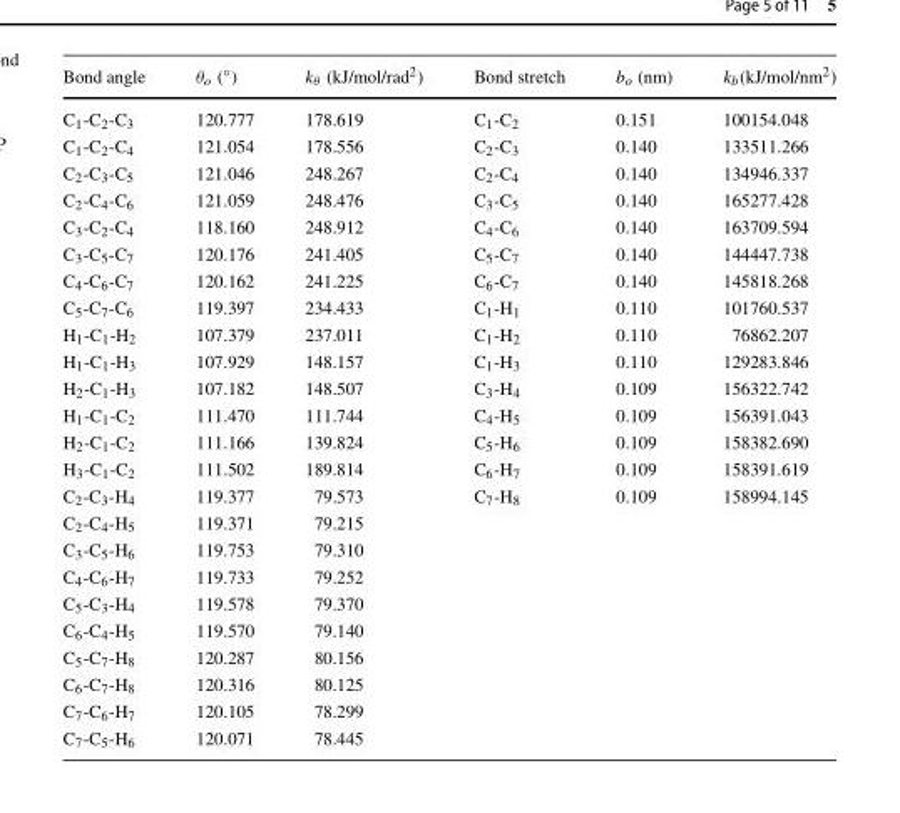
<table><thead><tr><td>Bond angle</td><td>θo (◦)</td><td>k<sub>θ</sub> (kJ/mol/rad<sup>2</sup>)</td><td>Bond stretch</td><td>b<sub>o</sub> (nm)</td><td>k<sub>b</sub>(kJ/mol/nm<sup>2</sup>)</td></tr></thead><tbody><tr><td>C<sub>1</sub>-C<sub>2</sub>-C<sub>3</sub></td><td>120.777</td><td>178.619</td><td>C<sub>1</sub>-C<sub>2</sub></td><td>0.151</td><td>100154.048</td></tr><tr><td>C<sub>1</sub>-C<sub>2</sub>-C<sub>4</sub></td><td>121.054</td><td>178.556</td><td>C<sub>2</sub>-C<sub>3</sub></td><td>0.140</td><td>133511.266</td></tr><tr><td>C<sub>2</sub>-C<sub>3</sub>-C<sub>5</sub></td><td>121.046</td><td>248.267</td><td>C<sub>2</sub>-C<sub>4</sub></td><td>0.140</td><td>134946.337</td></tr><tr><td>C<sub>2</sub>-C<sub>4</sub>-C<sub>6</sub></td><td>121.059</td><td>248.476</td><td>C<sub>3</sub>-C<sub>5</sub></td><td>0.140</td><td>165277.428</td></tr><tr><td>C<sub>3</sub>-C<sub>2</sub>-C<sub>4</sub></td><td>118.160</td><td>248.912</td><td>C<sub>4</sub>-C<sub>6</sub></td><td>0.140</td><td>163709.594</td></tr><tr><td>C<sub>3</sub>-C<sub>5</sub>-C<sub>7</sub></td><td>120.176</td><td>241.405</td><td>C<sub>5</sub>-C<sub>7</sub></td><td>0.140</td><td>144447.738</td></tr><tr><td>C<sub>4</sub>-C<sub>6</sub>-C<sub>7</sub></td><td>120.162</td><td>241.225</td><td>C<sub>6</sub>-C<sub>7</sub></td><td>0.140</td><td>145818.268</td></tr><tr><td>C<sub>5</sub>-C<sub>7</sub>-C<sub>6</sub></td><td>119.397</td><td>234.433</td><td>C<sub>1</sub>-H<sub>1</sub></td><td>0.110</td><td>101760.537</td></tr><tr><td>H<sub>1</sub>-C<sub>1</sub>-H<sub>2</sub></td><td>107.379</td><td>237.011</td><td>C<sub>1</sub>-H<sub>2</sub></td><td>0.110</td><td>76862.207</td></tr><tr><td>H<sub>1</sub>-C<sub>1</sub>-H<sub>3</sub></td><td>107.929</td><td>148.157</td><td>C<sub>1</sub>-H<sub>3</sub></td><td>0.110</td><td>129283.846</td></tr><tr><td>H<sub>2</sub>-C<sub>1</sub>-H<sub>3</sub></td><td>107.182</td><td>148.507</td><td>C<sub>3</sub>-H<sub>4</sub></td><td>0.109</td><td>156322.742</td></tr><tr><td>H<sub>1</sub>-C<sub>1</sub>-C<sub>2</sub></td><td>111.470</td><td>111.744</td><td>C<sub>4</sub>-H<sub>5</sub></td><td>0.109</td><td>156391.043</td></tr><tr><td>H<sub>2</sub>-C<sub>1</sub>-C<sub>2</sub></td><td>111.166</td><td>139.824</td><td>C<sub>5</sub>-H<sub>6</sub></td><td>0.109</td><td>158382.690</td></tr><tr><td>H<sub>3</sub>-C<sub>1</sub>-C<sub>2</sub></td><td>111.502</td><td>189.814</td><td>C<sub>6</sub>-H<sub>7</sub></td><td>0.109</td><td>158391.619</td></tr><tr><td>C<sub>2</sub>-C<sub>3</sub>-H<sub>4</sub></td><td>119.377</td><td>79.573</td><td>C<sub>7</sub>-H<sub>8</sub></td><td>0.109</td><td>158994.145</td></tr><tr><td>C<sub>2</sub>-C<sub>4</sub>-H<sub>5</sub></td><td>119.371</td><td>79.215</td><td></td><td></td><td></td></tr><tr><td>C<sub>3</sub>-C<sub>5</sub>-H<sub>6</sub></td><td>119.753</td><td>79.310</td><td></td><td></td><td></td></tr><tr><td>C<sub>4</sub>-C<sub>6</sub>-H<sub>7</sub></td><td>119.733</td><td>79.252</td><td></td><td></td><td></td></tr><tr><td>C<sub>5</sub>-C<sub>3</sub>-H<sub>4</sub></td><td>119.578</td><td>79.370</td><td></td><td></td><td></td></tr><tr><td>C<sub>6</sub>-C<sub>4</sub>-H<sub>5</sub></td><td>119.570</td><td>79.140</td><td></td><td></td><td></td></tr><tr><td>C<sub>5</sub>-C<sub>7</sub>-H<sub>8</sub></td><td>120.287</td><td>80.156</td><td></td><td></td><td></td></tr><tr><td>C<sub>6</sub>-C<sub>7</sub>-H<sub>8</sub></td><td>120.316</td><td>80.125</td><td></td><td></td><td></td></tr><tr><td>C<sub>7</sub>-C<sub>6</sub>-H<sub>7</sub></td><td>120.105</td><td>78.299</td><td></td><td></td><td></td></tr><tr><td>C<sub>7</sub>-C<sub>5</sub>-H<sub>6</sub></td><td>120.071</td><td>78.445</td><td></td><td></td><td></td></tr></tbody></table>